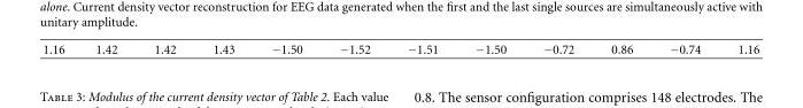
<table><tbody><tr><td>1.16</td><td>1.42</td><td>1.42</td><td>1.43</td><td>−1.50</td><td>−1.52</td><td>−1.51</td><td>−1.50</td><td>−0.72</td><td>0.86</td><td>−0.74</td><td>1.16</td></tr></tbody></table>